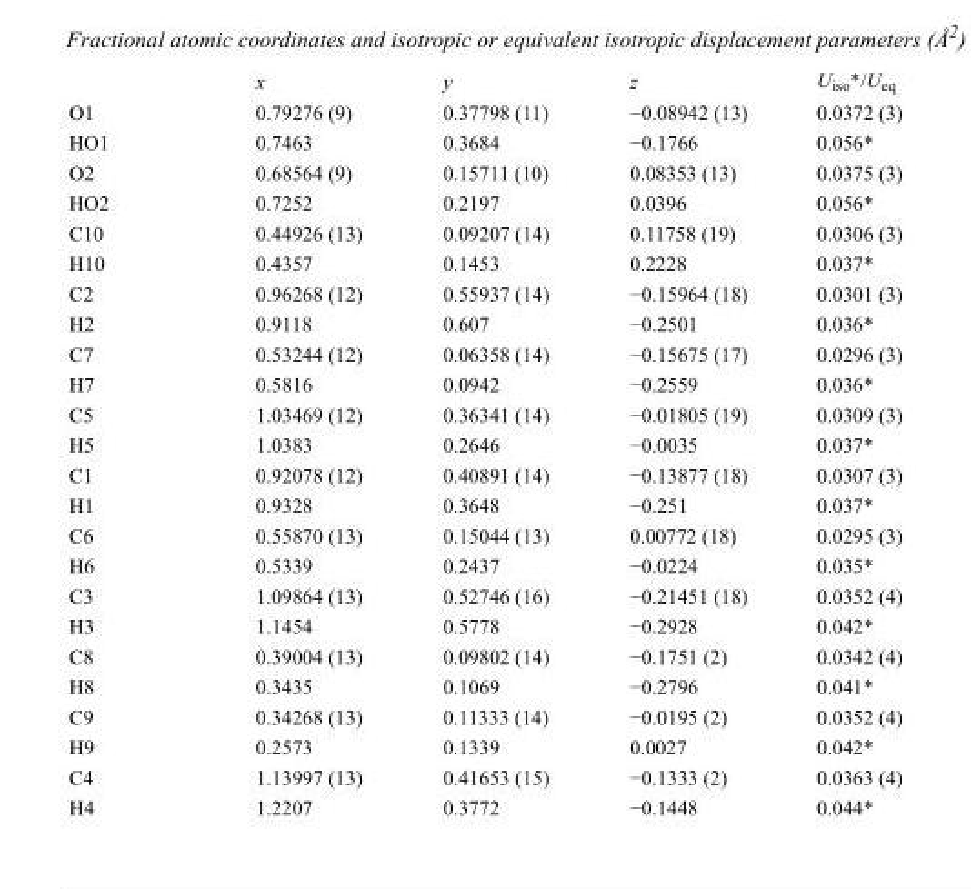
<table><thead><tr><td></td><td>x</td><td>y</td><td>z</td><td>U<sub>iso</sub>*/U<sub>eq</sub></td></tr></thead><tbody><tr><td>O1</td><td>0.79276 (9)</td><td>0.37798 (11)</td><td>−0.08942 (13)</td><td>0.0372 (3)</td></tr><tr><td>HO1</td><td>0.7463</td><td>0.3684</td><td>−0.1766</td><td>0.056*</td></tr><tr><td>O2</td><td>0.68564 (9)</td><td>0.15711 (10)</td><td>0.08353 (13)</td><td>0.0375 (3)</td></tr><tr><td>HO2</td><td>0.7252</td><td>0.2197</td><td>0.0396</td><td>0.056*</td></tr><tr><td>C10</td><td>0.44926 (13)</td><td>0.09207 (14)</td><td>0.11758 (19)</td><td>0.0306 (3)</td></tr><tr><td>H10</td><td>0.4357</td><td>0.1453</td><td>0.2228</td><td>0.037*</td></tr><tr><td>C2</td><td>0.96268 (12)</td><td>0.55937 (14)</td><td>−0.15964 (18)</td><td>0.0301 (3)</td></tr><tr><td>H2</td><td>0.9118</td><td>0.607</td><td>−0.2501</td><td>0.036*</td></tr><tr><td>C7</td><td>0.53244 (12)</td><td>0.06358 (14)</td><td>−0.15675 (17)</td><td>0.0296 (3)</td></tr><tr><td>H7</td><td>0.5816</td><td>0.0942</td><td>−0.2559</td><td>0.036*</td></tr><tr><td>C5</td><td>1.03469 (12)</td><td>0.36341 (14)</td><td>−0.01805 (19)</td><td>0.0309 (3)</td></tr><tr><td>H5</td><td>1.0383</td><td>0.2646</td><td>−0.0035</td><td>0.037*</td></tr><tr><td>C1</td><td>0.92078 (12)</td><td>0.40891 (14)</td><td>−0.13877 (18)</td><td>0.0307 (3)</td></tr><tr><td>H1</td><td>0.9328</td><td>0.3648</td><td>−0.251</td><td>0.037*</td></tr><tr><td>C6</td><td>0.55870 (13)</td><td>0.15044 (13)</td><td>0.00772 (18)</td><td>0.0295 (3)</td></tr><tr><td>H6</td><td>0.5339</td><td>0.2437</td><td>−0.0224</td><td>0.035*</td></tr><tr><td>C3</td><td>1.09864 (13)</td><td>0.52746 (16)</td><td>−0.21451 (18)</td><td>0.0352 (4)</td></tr><tr><td>H3</td><td>1.1454</td><td>0.5778</td><td>−0.2928</td><td>0.042*</td></tr><tr><td>C8</td><td>0.39004 (13)</td><td>0.09802 (14)</td><td>−0.1751 (2)</td><td>0.0342 (4)</td></tr><tr><td>H8</td><td>0.3435</td><td>0.1069</td><td>−0.2796</td><td>0.041*</td></tr><tr><td>C9</td><td>0.34268 (13)</td><td>0.11333 (14)</td><td>−0.0195 (2)</td><td>0.0352 (4)</td></tr><tr><td>H9</td><td>0.2573</td><td>0.1339</td><td>0.0027</td><td>0.042*</td></tr><tr><td>C4</td><td>1.13997 (13)</td><td>0.41653 (15)</td><td>−0.1333 (2)</td><td>0.0363 (4)</td></tr><tr><td>H4</td><td>1.2207</td><td>0.3772</td><td>−0.1448</td><td>0.044*</td></tr></tbody></table>